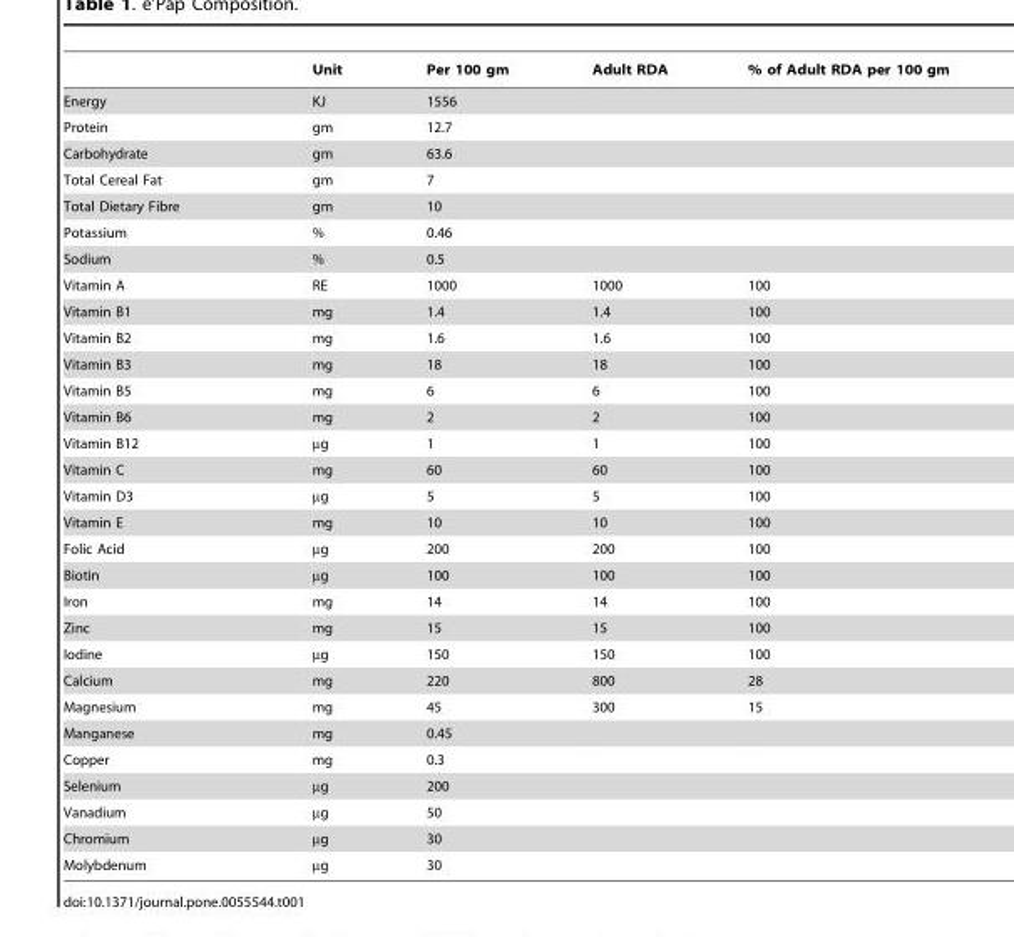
<table><thead><tr><td></td><td>Unit</td><td>Per 100 gm</td><td>Adult RDA</td><td>% of Adult RDA per 100 gm</td></tr></thead><tbody><tr><td>Energy</td><td>KJ</td><td>1556</td><td></td><td></td></tr><tr><td>Protein</td><td>gm</td><td>12.7</td><td></td><td></td></tr><tr><td>Carbohydrate</td><td>gm</td><td>63.6</td><td></td><td></td></tr><tr><td>Total Cereal Fat</td><td>gm</td><td>7</td><td></td><td></td></tr><tr><td>Total Dietary Fibre</td><td>gm</td><td>10</td><td></td><td></td></tr><tr><td>Potassium</td><td>%</td><td>0.46</td><td></td><td></td></tr><tr><td>Sodium</td><td>%</td><td>0.5</td><td></td><td></td></tr><tr><td>Vitamin A</td><td>RE</td><td>1000</td><td>1000</td><td>100</td></tr><tr><td>Vitamin B1</td><td>mg</td><td>1.4</td><td>1.4</td><td>100</td></tr><tr><td>Vitamin B2</td><td>mg</td><td>1.6</td><td>1.6</td><td>100</td></tr><tr><td>Vitamin B3</td><td>mg</td><td>18</td><td>18</td><td>100</td></tr><tr><td>Vitamin B5</td><td>mg</td><td>6</td><td>6</td><td>100</td></tr><tr><td>Vitamin B6</td><td>mg</td><td>2</td><td>2</td><td>100</td></tr><tr><td>Vitamin B12</td><td>µg</td><td>1</td><td>1</td><td>100</td></tr><tr><td>Vitamin C</td><td>mg</td><td>60</td><td>60</td><td>100</td></tr><tr><td>Vitamin D3</td><td>µg</td><td>5</td><td>5</td><td>100</td></tr><tr><td>Vitamin E</td><td>mg</td><td>10</td><td>10</td><td>100</td></tr><tr><td>Folic Acid</td><td>µg</td><td>200</td><td>200</td><td>100</td></tr><tr><td>Biotin</td><td>µg</td><td>100</td><td>100</td><td>100</td></tr><tr><td>Iron</td><td>mg</td><td>14</td><td>14</td><td>100</td></tr><tr><td>Zinc</td><td>mg</td><td>15</td><td>15</td><td>100</td></tr><tr><td>Iodine</td><td>µg</td><td>150</td><td>150</td><td>100</td></tr><tr><td>Calcium</td><td>mg</td><td>220</td><td>800</td><td>28</td></tr><tr><td>Magnesium</td><td>mg</td><td>45</td><td>300</td><td>15</td></tr><tr><td>Manganese</td><td>mg</td><td>0.45</td><td></td><td></td></tr><tr><td>Copper</td><td>mg</td><td>0.3</td><td></td><td></td></tr><tr><td>Selenium</td><td>µg</td><td>200</td><td></td><td></td></tr><tr><td>Vanadium</td><td>µg</td><td>50</td><td></td><td></td></tr><tr><td>Chromium</td><td>µg</td><td>30</td><td></td><td></td></tr><tr><td>Molybdenum</td><td>µg</td><td>30</td><td></td><td></td></tr></tbody></table>